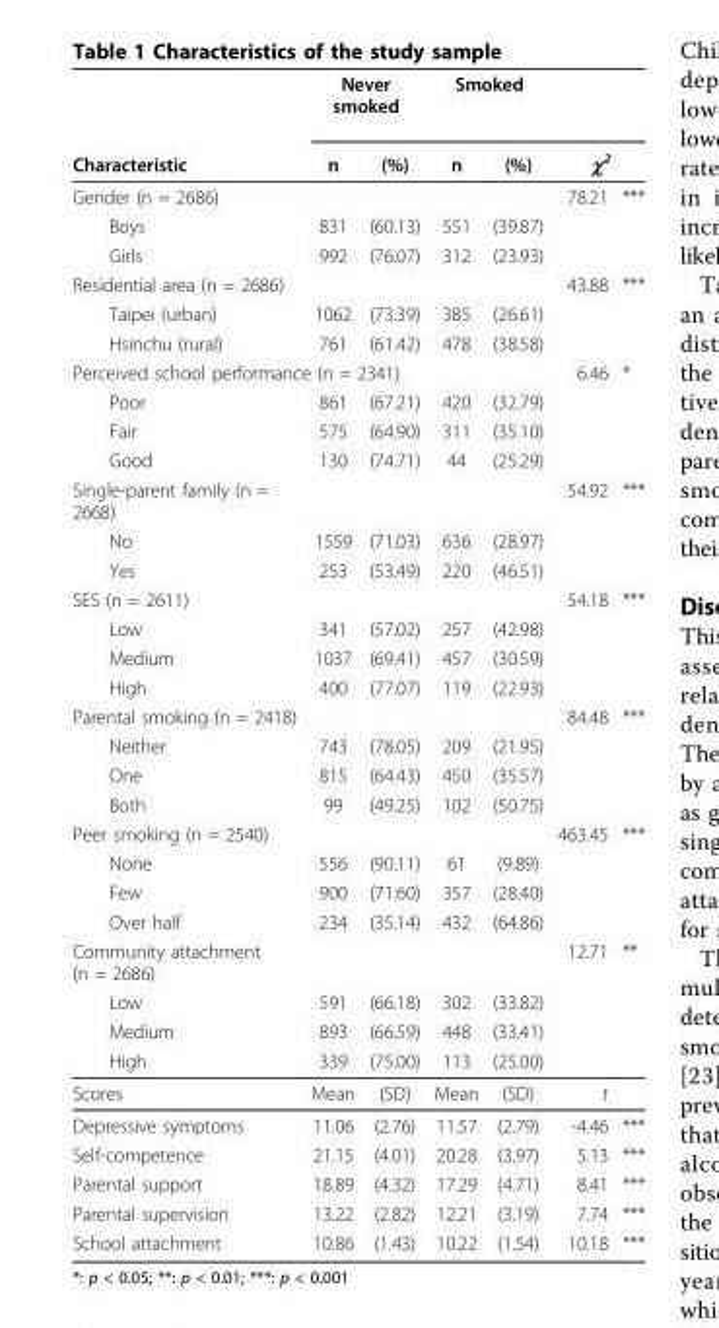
<table><thead><tr><td rowspan="2">Characteristic</td><td colspan="2">Never smoked</td><td colspan="2">Smoked</td><td></td><td></td></tr><tr><td>n</td><td>(%)</td><td>n</td><td>(%)</td><td colspan="2">χ<sup>2</sup></td></tr></thead><tbody><tr><td>Gender (n = 2686)</td><td></td><td></td><td></td><td></td><td>78.21</td><td>***</td></tr><tr><td>Boys</td><td>831</td><td>(60.13)</td><td>551</td><td>(39.87)</td><td></td><td></td></tr><tr><td>Girls</td><td>992</td><td>(76.07)</td><td>312</td><td>(23.93)</td><td></td><td></td></tr><tr><td>Residential area (n = 2686)</td><td></td><td></td><td></td><td></td><td>43.88</td><td>***</td></tr><tr><td>Taipei (urban)</td><td>1062</td><td>(73.39)</td><td>385</td><td>(26.61)</td><td></td><td></td></tr><tr><td>Hsinchu (rural)</td><td>761</td><td>(61.42)</td><td>478</td><td>(38.58)</td><td></td><td></td></tr><tr><td colspan="3">Perceived school performance (n = 2341)</td><td></td><td></td><td>6.46</td><td>*</td></tr><tr><td>Poor</td><td>861</td><td>(67.21)</td><td>420</td><td>(32.79)</td><td></td><td></td></tr><tr><td>Fair</td><td>575</td><td>(64.90)</td><td>311</td><td>(35.10)</td><td></td><td></td></tr><tr><td>Good</td><td>130</td><td>(74.71)</td><td>44</td><td>(25.29)</td><td></td><td></td></tr><tr><td>Single-parent family (n = 2668)</td><td></td><td></td><td></td><td></td><td>54.92</td><td>***</td></tr><tr><td>No</td><td>1559</td><td>(71.03)</td><td>636</td><td>(28.97)</td><td></td><td></td></tr><tr><td>Yes</td><td>253</td><td>(53.49)</td><td>220</td><td>(46.51)</td><td></td><td></td></tr><tr><td>SES (n = 2611)</td><td></td><td></td><td></td><td></td><td>54.18</td><td>***</td></tr><tr><td>Low</td><td>341</td><td>(57.02)</td><td>257</td><td>(42.98)</td><td></td><td></td></tr><tr><td>Medium</td><td>1037</td><td>(69.41)</td><td>457</td><td>(30.59)</td><td></td><td></td></tr><tr><td>High</td><td>400</td><td>(77.07)</td><td>119</td><td>(22.93)</td><td></td><td></td></tr><tr><td>Parental smoking (n = 2418)</td><td></td><td></td><td></td><td></td><td>84.48</td><td>***</td></tr><tr><td>Neither</td><td>743</td><td>(78.05)</td><td>209</td><td>(21.95)</td><td></td><td></td></tr><tr><td>One</td><td>815</td><td>(64.43)</td><td>450</td><td>(35.57)</td><td></td><td></td></tr><tr><td>Both</td><td>99</td><td>(49.25)</td><td>102</td><td>(50.75)</td><td></td><td></td></tr><tr><td>Peer smoking (n = 2540)</td><td></td><td></td><td></td><td></td><td>463.45</td><td>***</td></tr><tr><td>None</td><td>556</td><td>(90.11)</td><td>61</td><td>(9.89)</td><td></td><td></td></tr><tr><td>Few</td><td>900</td><td>(71.60)</td><td>357</td><td>(28.40)</td><td></td><td></td></tr><tr><td>Over half</td><td>234</td><td>(35.14)</td><td>432</td><td>(64.86)</td><td></td><td></td></tr><tr><td colspan="2">Community attachment (n = 2686)</td><td></td><td></td><td></td><td>12.71</td><td>**</td></tr><tr><td>Low</td><td>591</td><td>(66.18)</td><td>302</td><td>(33.82)</td><td></td><td></td></tr><tr><td>Medium</td><td>893</td><td>(66.59)</td><td>448</td><td>(33.41)</td><td></td><td></td></tr><tr><td>High</td><td>339</td><td>(75.00)</td><td>113</td><td>(25.00)</td><td></td><td></td></tr><tr><td>Scores</td><td>Mean</td><td>(SD)</td><td>Mean</td><td>(SD)</td><td>t</td><td></td></tr><tr><td>Depressive symptoms</td><td>11.06</td><td>(2.76)</td><td>11.57</td><td>(2.79)</td><td>-4.46</td><td>***</td></tr><tr><td>Self-competence</td><td>21.15</td><td>(4.01)</td><td>20.28</td><td>(3.97)</td><td>5.13</td><td>***</td></tr><tr><td>Parental support</td><td>18.89</td><td>(4.32)</td><td>17.29</td><td>(4.71)</td><td>8.41</td><td>***</td></tr><tr><td>Parental supervision</td><td>13.22</td><td>(2.82)</td><td>12.21</td><td>(3.19)</td><td>7.74</td><td>***</td></tr><tr><td>School attachment</td><td>10.86</td><td>(1.43)</td><td>10.22</td><td>(1.54)</td><td>10.18</td><td>***</td></tr></tbody></table>